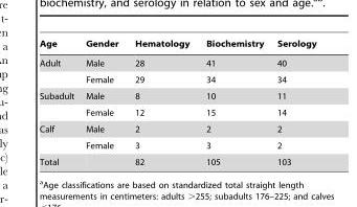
<table><thead><tr><td>Age</td><td>Gender</td><td>Hematology</td><td>Biochemistry</td><td>Serology</td></tr></thead><tbody><tr><td rowspan="2">Adult</td><td>Male</td><td>28</td><td>41</td><td>40</td></tr><tr><td>Female</td><td>29</td><td>34</td><td>34</td></tr><tr><td rowspan="2">Subadult</td><td>Male</td><td>8</td><td>10</td><td>11</td></tr><tr><td>Female</td><td>12</td><td>15</td><td>14</td></tr><tr><td rowspan="2">Calf</td><td>Male</td><td>2</td><td>2</td><td>2</td></tr><tr><td>Female</td><td>3</td><td>3</td><td>2</td></tr><tr><td>Total</td><td></td><td>82</td><td>105</td><td>103</td></tr></tbody></table>